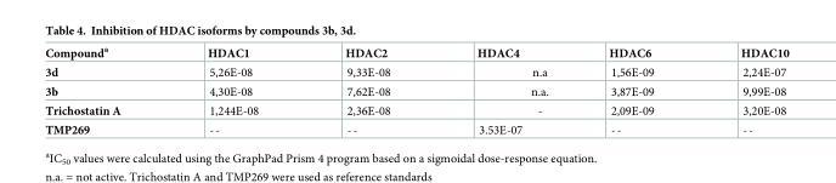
<table><thead><tr><td>Compound<sup>a</sup></td><td>HDAC1</td><td>HDAC2</td><td>HDAC4</td><td>HDAC6</td><td>HDAC10</td></tr></thead><tbody><tr><td>3d</td><td>5,26E-08</td><td>9,33E-08</td><td>n.a</td><td>1,56E-09</td><td>2,24E-07</td></tr><tr><td>3b</td><td>4,30E-08</td><td>7,62E-08</td><td>n.a.</td><td>3,87E-09</td><td>9,99E-08</td></tr><tr><td>Trichostatin A</td><td>1,244E-08</td><td>2,36E-08</td><td>-</td><td>2,09E-09</td><td>3,20E-08</td></tr><tr><td>TMP269</td><td>--</td><td>--</td><td>3.53E-07</td><td>--</td><td>--</td></tr></tbody></table>